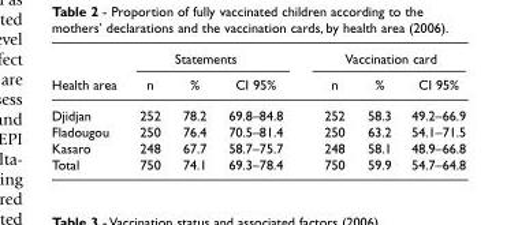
<table><thead><tr><td rowspan="2">Health area</td><td colspan="3">Statements</td><td colspan="3">Vaccination card</td></tr><tr><td>n</td><td>%</td><td>CI 95%</td><td>n</td><td>%</td><td>CI 95%</td></tr></thead><tbody><tr><td>Djidjan</td><td>252</td><td>78.2</td><td>69.8–84.8</td><td>252</td><td>58.3</td><td>49.2–66.9</td></tr><tr><td>Fladougou</td><td>250</td><td>76.4</td><td>70.5–81.4</td><td>250</td><td>63.2</td><td>54.1–71.5</td></tr><tr><td>Kasaro</td><td>248</td><td>67.7</td><td>58.7–75.7</td><td>248</td><td>58.1</td><td>48.9–66.8</td></tr><tr><td>Total</td><td>750</td><td>74.1</td><td>69.3–78.4</td><td>750</td><td>59.9</td><td>54.7–64.8</td></tr></tbody></table>